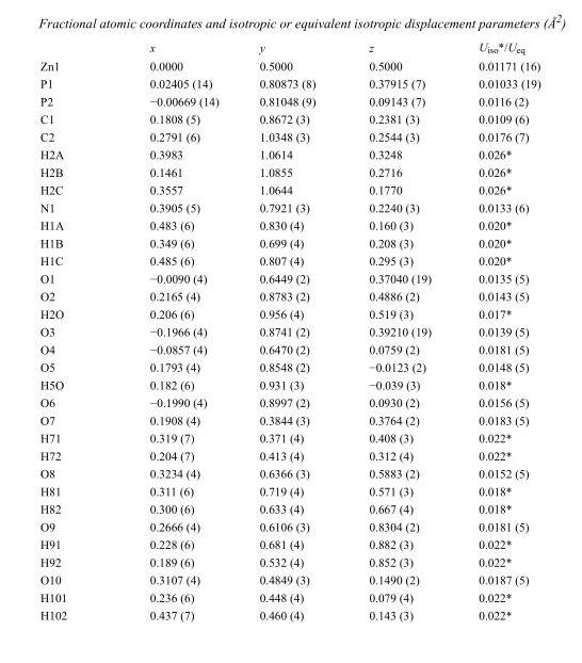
<table><thead><tr><td></td><td>x</td><td>y</td><td>z</td><td>U<sub>iso</sub>*/U<sub>eq</sub></td></tr></thead><tbody><tr><td>Zn1</td><td>0.0000</td><td>0.5000</td><td>0.5000</td><td>0.01171 (16)</td></tr><tr><td>P1</td><td>0.02405 (14)</td><td>0.80873 (8)</td><td>0.37915 (7)</td><td>0.01033 (19)</td></tr><tr><td>P2</td><td>−0.00669 (14)</td><td>0.81048 (9)</td><td>0.09143 (7)</td><td>0.0116 (2)</td></tr><tr><td>C1</td><td>0.1808 (5)</td><td>0.8672 (3)</td><td>0.2381 (3)</td><td>0.0109 (6)</td></tr><tr><td>C2</td><td>0.2791 (6)</td><td>1.0348 (3)</td><td>0.2544 (3)</td><td>0.0176 (7)</td></tr><tr><td>H2A</td><td>0.3983</td><td>1.0614</td><td>0.3248</td><td>0.026*</td></tr><tr><td>H2B</td><td>0.1461</td><td>1.0855</td><td>0.2716</td><td>0.026*</td></tr><tr><td>H2C</td><td>0.3557</td><td>1.0644</td><td>0.1770</td><td>0.026*</td></tr><tr><td>N1</td><td>0.3905 (5)</td><td>0.7921 (3)</td><td>0.2240 (3)</td><td>0.0133 (6)</td></tr><tr><td>H1A</td><td>0.483 (6)</td><td>0.830 (4)</td><td>0.160 (3)</td><td>0.020*</td></tr><tr><td>H1B</td><td>0.349 (6)</td><td>0.699 (4)</td><td>0.208 (3)</td><td>0.020*</td></tr><tr><td>H1C</td><td>0.485 (6)</td><td>0.807 (4)</td><td>0.295 (3)</td><td>0.020*</td></tr><tr><td>O1</td><td>−0.0090 (4)</td><td>0.6449 (2)</td><td>0.37040 (19)</td><td>0.0135 (5)</td></tr><tr><td>O2</td><td>0.2165 (4)</td><td>0.8783 (2)</td><td>0.4886 (2)</td><td>0.0143 (5)</td></tr><tr><td>H2O</td><td>0.206 (6)</td><td>0.956 (4)</td><td>0.519 (3)</td><td>0.017*</td></tr><tr><td>O3</td><td>−0.1966 (4)</td><td>0.8741 (2)</td><td>0.39210 (19)</td><td>0.0139 (5)</td></tr><tr><td>O4</td><td>−0.0857 (4)</td><td>0.6470 (2)</td><td>0.0759 (2)</td><td>0.0181 (5)</td></tr><tr><td>O5</td><td>0.1793 (4)</td><td>0.8548 (2)</td><td>−0.0123 (2)</td><td>0.0148 (5)</td></tr><tr><td>H5O</td><td>0.182 (6)</td><td>0.931 (3)</td><td>−0.039 (3)</td><td>0.018*</td></tr><tr><td>O6</td><td>−0.1990 (4)</td><td>0.8997 (2)</td><td>0.0930 (2)</td><td>0.0156 (5)</td></tr><tr><td>O7</td><td>0.1908 (4)</td><td>0.3844 (3)</td><td>0.3764 (2)</td><td>0.0183 (5)</td></tr><tr><td>H71</td><td>0.319 (7)</td><td>0.371 (4)</td><td>0.408 (3)</td><td>0.022*</td></tr><tr><td>H72</td><td>0.204 (7)</td><td>0.413 (4)</td><td>0.312 (4)</td><td>0.022*</td></tr><tr><td>O8</td><td>0.3234 (4)</td><td>0.6366 (3)</td><td>0.5883 (2)</td><td>0.0152 (5)</td></tr><tr><td>H81</td><td>0.311 (6)</td><td>0.719 (4)</td><td>0.571 (3)</td><td>0.018*</td></tr><tr><td>H82</td><td>0.300 (6)</td><td>0.633 (4)</td><td>0.667 (4)</td><td>0.018*</td></tr><tr><td>O9</td><td>0.2666 (4)</td><td>0.6106 (3)</td><td>0.8304 (2)</td><td>0.0181 (5)</td></tr><tr><td>H91</td><td>0.228 (6)</td><td>0.681 (4)</td><td>0.882 (3)</td><td>0.022*</td></tr><tr><td>H92</td><td>0.189 (6)</td><td>0.532 (4)</td><td>0.852 (3)</td><td>0.022*</td></tr><tr><td>O10</td><td>0.3107 (4)</td><td>0.4849 (3)</td><td>0.1490 (2)</td><td>0.0187 (5)</td></tr><tr><td>H101</td><td>0.236 (6)</td><td>0.448 (4)</td><td>0.079 (4)</td><td>0.022*</td></tr><tr><td>H102</td><td>0.437 (7)</td><td>0.460 (4)</td><td>0.143 (3)</td><td>0.022*</td></tr></tbody></table>